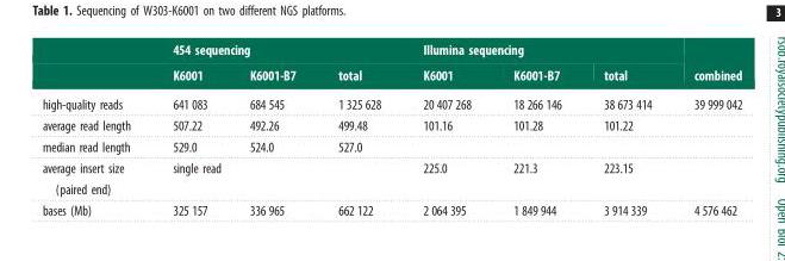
<table><thead><tr><td rowspan="2"></td><td colspan="3">454 sequencing</td><td colspan="3">Illumina sequencing</td><td rowspan="2">combined</td></tr><tr><td>K6001</td><td>K6001-B7</td><td>total</td><td>K6001</td><td>K6001-B7</td><td>total</td></tr></thead><tbody><tr><td>high-quality reads</td><td>641 083</td><td>684 545</td><td>1 325 628</td><td>20 407 268</td><td>18 266 146</td><td>38 673 414</td><td>39 999 042</td></tr><tr><td>average read length</td><td>507.22</td><td>492.26</td><td>499.48</td><td>101.16</td><td>101.28</td><td>101.22</td><td></td></tr><tr><td>median read length</td><td>529.0</td><td>524.0</td><td>527.0</td><td></td><td></td><td></td><td></td></tr><tr><td>average insert size (paired end)</td><td colspan="3">single read</td><td>225.0</td><td>221.3</td><td>223.15</td><td></td></tr><tr><td>bases (Mb)</td><td>325 157</td><td>336 965</td><td>662 122</td><td>2 064 395</td><td>1 849 944</td><td>3 914 339</td><td>4 576 462</td></tr></tbody></table>